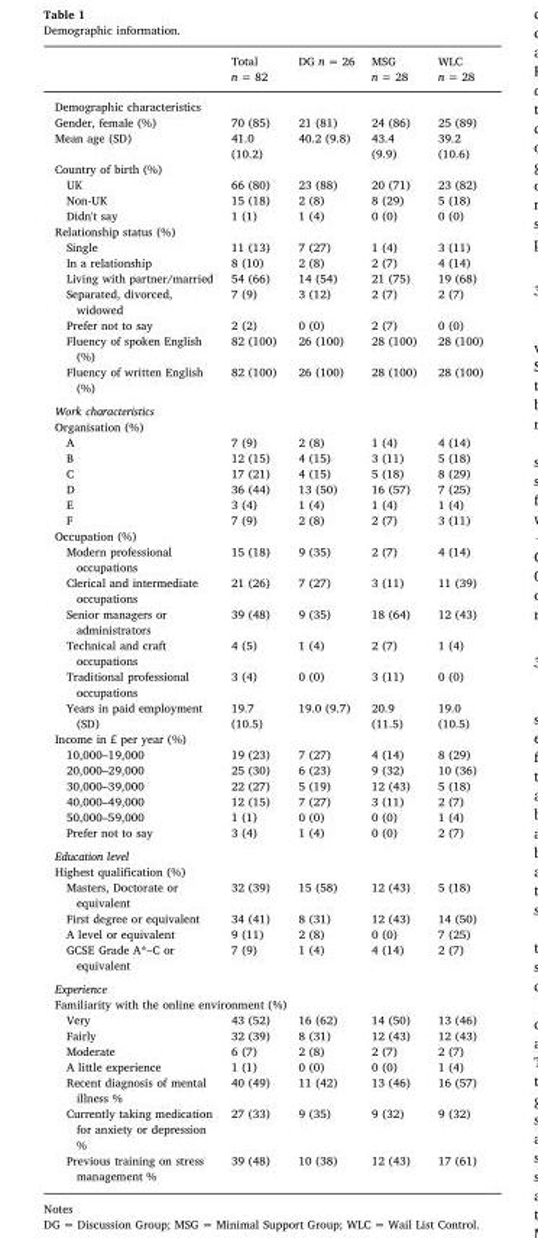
<table><thead><tr><td></td><td>Total n = 82</td><td>DG n = 26</td><td>MSG n = 28</td><td>WLC n = 28</td></tr></thead><tbody><tr><td colspan="5">Demographic characteristics</td></tr><tr><td>Gender, female (%)</td><td>70 (85)</td><td>21 (81)</td><td>24 (86)</td><td>25 (89)</td></tr><tr><td>Mean age (SD)</td><td>41.0 (10.2)</td><td>40.2 (9.8)</td><td>43.4 (9.9)</td><td>39.2 (10.6)</td></tr><tr><td colspan="5">Country of birth (%)</td></tr><tr><td>UK</td><td>66 (80)</td><td>23 (88)</td><td>20 (71)</td><td>23 (82)</td></tr><tr><td>Non-UK</td><td>15 (18)</td><td>2 (8)</td><td>8 (29)</td><td>5 (18)</td></tr><tr><td>Didn&#x27;t say</td><td>1 (1)</td><td>1 (4)</td><td>0 (0)</td><td>0 (0)</td></tr><tr><td colspan="5">Relationship status (%)</td></tr><tr><td>Single</td><td>11 (13)</td><td>7 (27)</td><td>1 (4)</td><td>3 (11)</td></tr><tr><td>In a relationship</td><td>8 (10)</td><td>2 (8)</td><td>2 (7)</td><td>4 (14)</td></tr><tr><td>Living with partner/married</td><td>54 (66)</td><td>14 (54)</td><td>21 (75)</td><td>19 (68)</td></tr><tr><td>Separated, divorced, widowed</td><td>7 (9)</td><td>3 (12)</td><td>2 (7)</td><td>2 (7)</td></tr><tr><td>Prefer not to say</td><td>2 (2)</td><td>0 (0)</td><td>2 (7)</td><td>0 (0)</td></tr><tr><td>Fluency of spoken English (%)</td><td>82 (100)</td><td>26 (100)</td><td>28 (100)</td><td>28 (100)</td></tr><tr><td>Fluency of written English (%)</td><td>82 (100)</td><td>26 (100)</td><td>28 (100)</td><td>28 (100)</td></tr><tr><td colspan="5">Work characteristics</td></tr><tr><td colspan="5">Organisation (%)</td></tr><tr><td>A</td><td>7 (9)</td><td>2 (8)</td><td>1 (4)</td><td>4 (14)</td></tr><tr><td>B</td><td>12 (15)</td><td>4 (15)</td><td>3 (11)</td><td>5 (18)</td></tr><tr><td>C</td><td>17 (21)</td><td>4 (15)</td><td>5 (18)</td><td>8 (29)</td></tr><tr><td>D</td><td>36 (44)</td><td>13 (50)</td><td>16 (57)</td><td>7 (25)</td></tr><tr><td>E</td><td>3 (4)</td><td>1 (4)</td><td>1 (4)</td><td>1 (4)</td></tr><tr><td>F</td><td>7 (9)</td><td>2 (8)</td><td>2 (7)</td><td>3 (11)</td></tr><tr><td colspan="5">Occupation (%)</td></tr><tr><td>Modern professional occupations</td><td>15 (18)</td><td>9 (35)</td><td>2 (7)</td><td>4 (14)</td></tr><tr><td>Clerical and intermediate occupations</td><td>21 (26)</td><td>7 (27)</td><td>3 (11)</td><td>11 (39)</td></tr><tr><td>Senior managers or administrators</td><td>39 (48)</td><td>9 (35)</td><td>18 (64)</td><td>12 (43)</td></tr><tr><td>Technical and craft occupations</td><td>4 (5)</td><td>1 (4)</td><td>2 (7)</td><td>1 (4)</td></tr><tr><td>Traditional professional occupations</td><td>3 (4)</td><td>0 (0)</td><td>3 (11)</td><td>0 (0)</td></tr><tr><td>Years in paid employment (SD)</td><td>19.7 (10.5)</td><td>19.0 (9.7)</td><td>20.9 (11.5)</td><td>19.0 (10.5)</td></tr><tr><td colspan="5">Income in £ per year (%)</td></tr><tr><td>10,000–19,000</td><td>19 (23)</td><td>7 (27)</td><td>4 (14)</td><td>8 (29)</td></tr><tr><td>20,000–29,000</td><td>25 (30)</td><td>6 (23)</td><td>9 (32)</td><td>10 (36)</td></tr><tr><td>30,000–39,000</td><td>22 (27)</td><td>5 (19)</td><td>12 (43)</td><td>5 (18)</td></tr><tr><td>40,000–49,000</td><td>12 (15)</td><td>7 (27)</td><td>3 (11)</td><td>2 (7)</td></tr><tr><td>50,000–59,000</td><td>1 (1)</td><td>0 (0)</td><td>0 (0)</td><td>1 (4)</td></tr><tr><td>Prefer not to say</td><td>3 (4)</td><td>1 (4)</td><td>0 (0)</td><td>2 (7)</td></tr><tr><td colspan="5">Education level</td></tr><tr><td colspan="5">Highest qualification (%)</td></tr><tr><td>Masters, Doctorate or equivalent</td><td>32 (39)</td><td>15 (58)</td><td>12 (43)</td><td>5 (18)</td></tr><tr><td>First degree or equivalent</td><td>34 (41)</td><td>8 (31)</td><td>12 (43)</td><td>14 (50)</td></tr><tr><td>A level or equivalent</td><td>9 (11)</td><td>2 (8)</td><td>0 (0)</td><td>7 (25)</td></tr><tr><td>GCSE Grade A*–C or equivalent</td><td>7 (9)</td><td>1 (4)</td><td>4 (14)</td><td>2 (7)</td></tr><tr><td colspan="5">Experience</td></tr><tr><td colspan="5">Familiarity with the online environment (%)</td></tr><tr><td>Very</td><td>43 (52)</td><td>16 (62)</td><td>14 (50)</td><td>13 (46)</td></tr><tr><td>Fairly</td><td>32 (39)</td><td>8 (31)</td><td>12 (43)</td><td>12 (43)</td></tr><tr><td>Moderate</td><td>6 (7)</td><td>2 (8)</td><td>2 (7)</td><td>2 (7)</td></tr><tr><td>A little experience</td><td>1 (1)</td><td>0 (0)</td><td>0 (0)</td><td>1 (4)</td></tr><tr><td>Recent diagnosis of mental illness %</td><td>40 (49)</td><td>11 (42)</td><td>13 (46)</td><td>16 (57)</td></tr><tr><td>Currently taking medication for anxiety or depression %</td><td>27 (33)</td><td>9 (35)</td><td>9 (32)</td><td>9 (32)</td></tr><tr><td>Previous training on stress management %</td><td>39 (48)</td><td>10 (38)</td><td>12 (43)</td><td>17 (61)</td></tr></tbody></table>